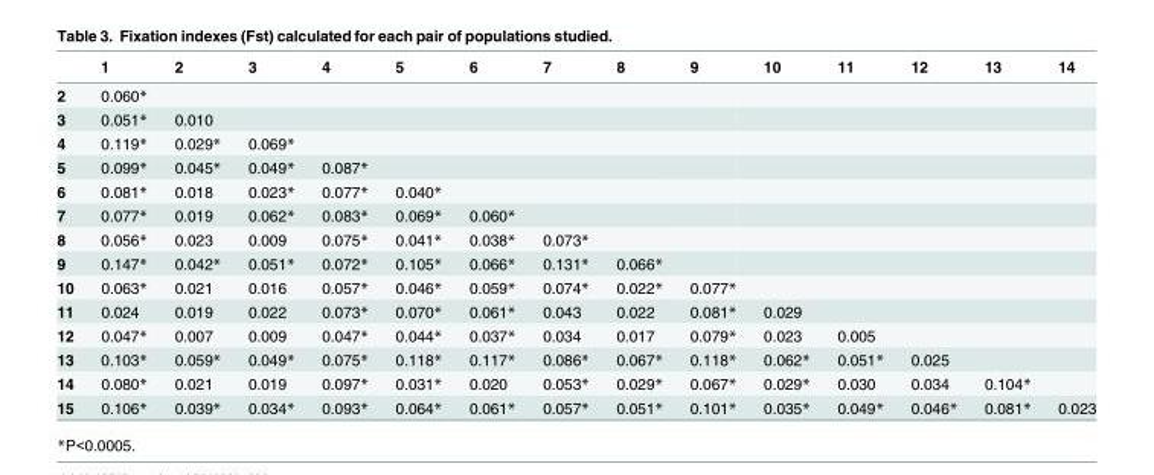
<table><thead><tr><td></td><td>1</td><td>2</td><td>3</td><td>4</td><td>5</td><td>6</td><td>7</td><td>8</td><td>9</td><td>10</td><td>11</td><td>12</td><td>13</td><td>14</td></tr></thead><tbody><tr><td>2</td><td>0.060*</td><td></td><td></td><td></td><td></td><td></td><td></td><td></td><td></td><td></td><td></td><td></td><td></td><td></td></tr><tr><td>3</td><td>0.051*</td><td>0.010</td><td></td><td></td><td></td><td></td><td></td><td></td><td></td><td></td><td></td><td></td><td></td><td></td></tr><tr><td>4</td><td>0.119*</td><td>0.029*</td><td>0.069*</td><td></td><td></td><td></td><td></td><td></td><td></td><td></td><td></td><td></td><td></td><td></td></tr><tr><td>5</td><td>0.099*</td><td>0.045*</td><td>0.049*</td><td>0.087*</td><td></td><td></td><td></td><td></td><td></td><td></td><td></td><td></td><td></td><td></td></tr><tr><td>6</td><td>0.081*</td><td>0.018</td><td>0.023*</td><td>0.077*</td><td>0.040*</td><td></td><td></td><td></td><td></td><td></td><td></td><td></td><td></td><td></td></tr><tr><td>7</td><td>0.077*</td><td>0.019</td><td>0.062*</td><td>0.083*</td><td>0.069*</td><td>0.060*</td><td></td><td></td><td></td><td></td><td></td><td></td><td></td><td></td></tr><tr><td>8</td><td>0.056*</td><td>0.023</td><td>0.009</td><td>0.075*</td><td>0.041*</td><td>0.038*</td><td>0.073*</td><td></td><td></td><td></td><td></td><td></td><td></td><td></td></tr><tr><td>9</td><td>0.147*</td><td>0.042*</td><td>0.051*</td><td>0.072*</td><td>0.105*</td><td>0.066*</td><td>0.131*</td><td>0.066*</td><td></td><td></td><td></td><td></td><td></td><td></td></tr><tr><td>10</td><td>0.063*</td><td>0.021</td><td>0.016</td><td>0.057*</td><td>0.046*</td><td>0.059*</td><td>0.074*</td><td>0.022*</td><td>0.077*</td><td></td><td></td><td></td><td></td><td></td></tr><tr><td>11</td><td>0.024</td><td>0.019</td><td>0.022</td><td>0.073*</td><td>0.070*</td><td>0.061*</td><td>0.043</td><td>0.022</td><td>0.081*</td><td>0.029</td><td></td><td></td><td></td><td></td></tr><tr><td>12</td><td>0.047*</td><td>0.007</td><td>0.009</td><td>0.047*</td><td>0.044*</td><td>0.037*</td><td>0.034</td><td>0.017</td><td>0.079*</td><td>0.023</td><td>0.005</td><td></td><td></td><td></td></tr><tr><td>13</td><td>0.103*</td><td>0.059*</td><td>0.049*</td><td>0.075*</td><td>0.118*</td><td>0.117*</td><td>0.086*</td><td>0.067*</td><td>0.118*</td><td>0.062*</td><td>0.051*</td><td>0.025</td><td></td><td></td></tr><tr><td>14</td><td>0.080*</td><td>0.021</td><td>0.019</td><td>0.097*</td><td>0.031*</td><td>0.020</td><td>0.053*</td><td>0.029*</td><td>0.067*</td><td>0.029*</td><td>0.030</td><td>0.034</td><td>0.104*</td><td></td></tr><tr><td>15</td><td>0.106*</td><td>0.039*</td><td>0.034*</td><td>0.093*</td><td>0.064*</td><td>0.061*</td><td>0.057*</td><td>0.051*</td><td>0.101*</td><td>0.035*</td><td>0.049*</td><td>0.046*</td><td>0.081*</td><td>0.023</td></tr></tbody></table>